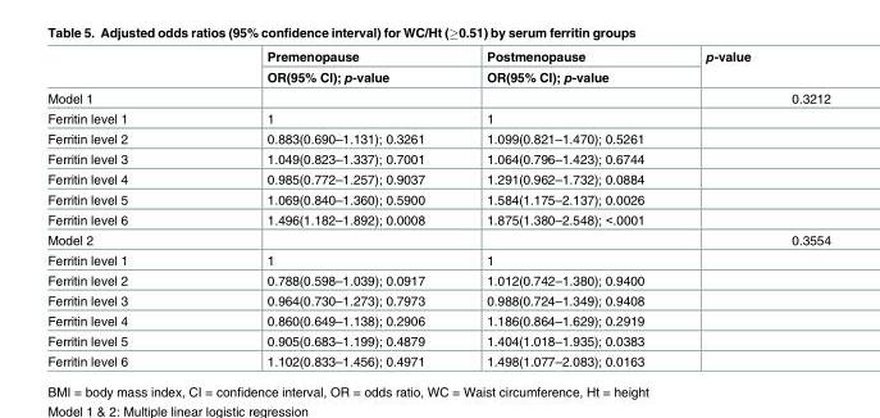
<table><thead><tr><td rowspan="2"></td><td rowspan="2">Premenopause OR(95% CI); p-value</td><td rowspan="2">Postmenopause OR(95% CI); p-value</td><td rowspan="2">p-value</td></tr><tr></tr></thead><tbody><tr><td>Model 1</td><td></td><td></td><td>0.3212</td></tr><tr><td>Ferritin level 1</td><td>1</td><td>1</td><td></td></tr><tr><td>Ferritin level 2</td><td>0.883(0.690–1.131); 0.3261</td><td>1.099(0.821–1.470); 0.5261</td><td></td></tr><tr><td>Ferritin level 3</td><td>1.049(0.823–1.337); 0.7001</td><td>1.064(0.796–1.423); 0.6744</td><td></td></tr><tr><td>Ferritin level 4</td><td>0.985(0.772–1.257); 0.9037</td><td>1.291(0.962–1.732); 0.0884</td><td></td></tr><tr><td>Ferritin level 5</td><td>1.069(0.840–1.360); 0.5900</td><td>1.584(1.175–2.137); 0.0026</td><td></td></tr><tr><td>Ferritin level 6</td><td>1.496(1.182–1.892); 0.0008</td><td>1.875(1.380–2.548); &lt;.0001</td><td></td></tr><tr><td>Model 2</td><td></td><td></td><td>0.3554</td></tr><tr><td>Ferritin level 1</td><td>1</td><td>1</td><td></td></tr><tr><td>Ferritin level 2</td><td>0.788(0.598–1.039); 0.0917</td><td>1.012(0.742–1.380); 0.9400</td><td></td></tr><tr><td>Ferritin level 3</td><td>0.964(0.730–1.273); 0.7973</td><td>0.988(0.724–1.349); 0.9408</td><td></td></tr><tr><td>Ferritin level 4</td><td>0.860(0.649–1.138); 0.2906</td><td>1.186(0.864–1.629); 0.2919</td><td></td></tr><tr><td>Ferritin level 5</td><td>0.905(0.683–1.199); 0.4879</td><td>1.404(1.018–1.935); 0.0383</td><td></td></tr><tr><td>Ferritin level 6</td><td>1.102(0.833–1.456); 0.4971</td><td>1.498(1.077–2.083); 0.0163</td><td></td></tr></tbody></table>